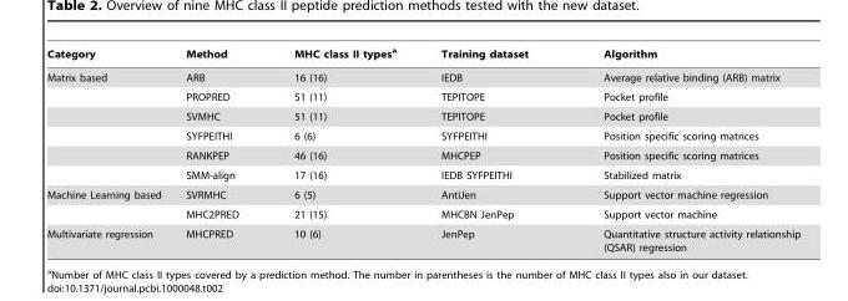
<table><thead><tr><td>Category</td><td>Method</td><td>MHC class II types<sup>a</sup></td><td>Training dataset</td><td>Algorithm</td></tr></thead><tbody><tr><td rowspan="6">Matrix based</td><td>ARB</td><td>16 (16)</td><td>IEDB</td><td>Average relative binding (ARB) matrix</td></tr><tr><td>PROPRED</td><td>51 (11)</td><td>TEPITOPE</td><td>Pocket profile</td></tr><tr><td>SVMHC</td><td>51 (11)</td><td>TEPITOPE</td><td>Pocket profile</td></tr><tr><td>SYFPEITHI</td><td>6 (6)</td><td>SYFPEITHI</td><td>Position specific scoring matrices</td></tr><tr><td>RANKPEP</td><td>46 (16)</td><td>MHCPEP</td><td>Position specific scoring matrices</td></tr><tr><td>SMM-align</td><td>17 (16)</td><td>IEDB SYFPEITHI</td><td>Stabilized matrix</td></tr><tr><td rowspan="2">Machine Learning based</td><td>SVRMHC</td><td>6 (5)</td><td>AntiJen</td><td>Support vector machine regression</td></tr><tr><td>MHC2PRED</td><td>21 (15)</td><td>MHCBN JenPep</td><td>Support vector machine</td></tr><tr><td>Multivariate regression</td><td>MHCPRED</td><td>10 (6)</td><td>JenPep</td><td>Quantitative structure activity relationship (QSAR) regression</td></tr></tbody></table>